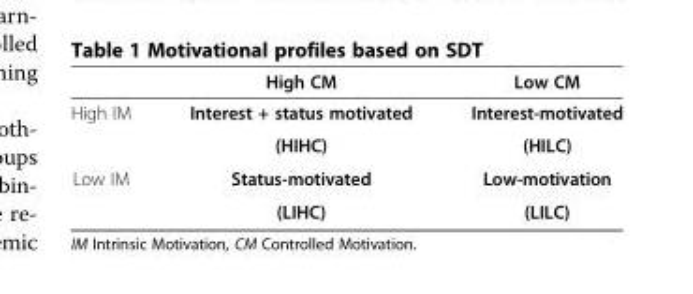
<table><thead><tr><td></td><td>High CM</td><td>Low CM</td></tr></thead><tbody><tr><td rowspan="2">High IM</td><td>Interest + status motivated</td><td>Interest-motivated</td></tr><tr><td>(HIHC)</td><td>(HILC)</td></tr><tr><td rowspan="2">Low IM</td><td>Status-motivated</td><td>Low-motivation</td></tr><tr><td>(LIHC)</td><td>(LILC)</td></tr></tbody></table>